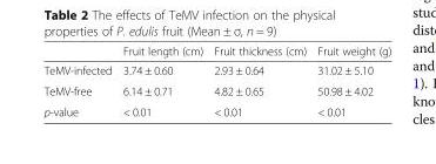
<table><thead><tr><td></td><td>Fruit length (cm)</td><td>Fruit thickness (cm)</td><td>Fruit weight (g)</td></tr></thead><tbody><tr><td>TeMV-infected</td><td>3.74 ± 0.60</td><td>2.93 ± 0.64</td><td>31.02 ± 5.10</td></tr><tr><td>TeMV-free</td><td>6.14 ± 0.71</td><td>4.82 ± 0.65</td><td>50.98 ± 4.02</td></tr><tr><td>p-value</td><td>&lt; 0.01</td><td>&lt; 0.01</td><td>&lt; 0.01</td></tr></tbody></table>